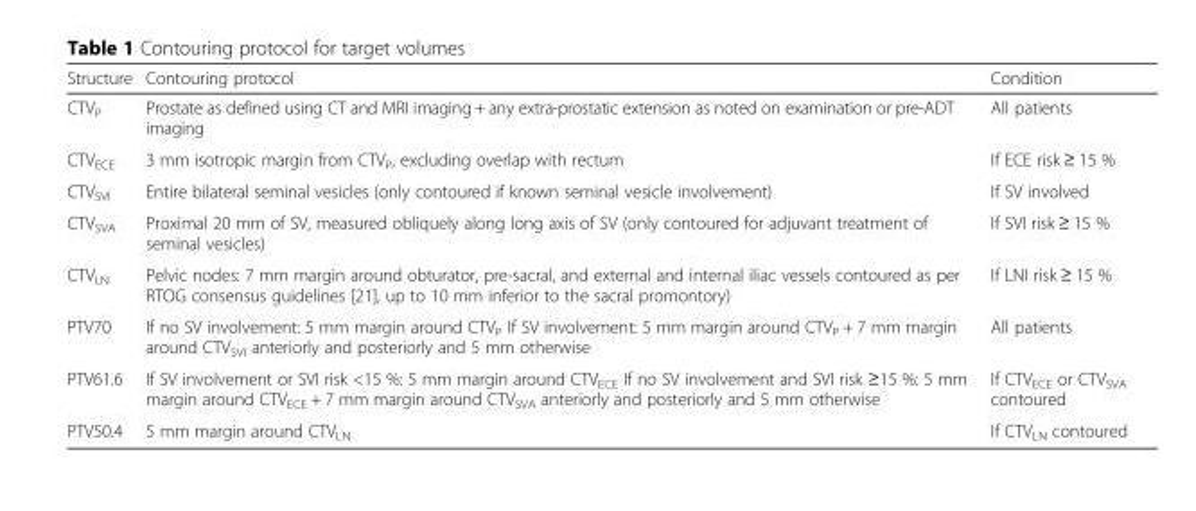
<table><thead><tr><td>Structure</td><td>Contouring protocol</td><td>Condition</td></tr></thead><tbody><tr><td>CTV<sub>P</sub></td><td>Prostate as defined using CT and MRI imaging + any extra-prostatic extension as noted on examination or pre-ADT imaging</td><td>All patients</td></tr><tr><td>CTV<sub>ECE</sub></td><td>3 mm isotropic margin from CTV<sub>P</sub>, excluding overlap with rectum</td><td>If ECE risk ≥ 15 %</td></tr><tr><td>CTV<sub>SVI</sub></td><td>Entire bilateral seminal vesicles (only contoured if known seminal vesicle involvement)</td><td>If SV involved</td></tr><tr><td>CTV<sub>SVA</sub></td><td>Proximal 20 mm of SV, measured obliquely along long axis of SV (only contoured for adjuvant treatment of seminal vesicles)</td><td>If SVI risk ≥ 15 %</td></tr><tr><td>CTV<sub>LN</sub></td><td>Pelvic nodes: 7 mm margin around obturator, pre-sacral, and external and internal iliac vessels contoured as per RTOG consensus guidelines [21], up to 10 mm inferior to the sacral promontory)</td><td>If LNI risk ≥ 15 %</td></tr><tr><td>PTV70</td><td>If no SV involvement: 5 mm margin around CTV<sub>P</sub> If SV involvement: 5 mm margin around CTV<sub>P</sub> + 7 mm margin around CTV<sub>SVI</sub> anteriorly and posteriorly and 5 mm otherwise</td><td>All patients</td></tr><tr><td>PTV61.6</td><td>If SV involvement or SVI risk &lt;15 %: 5 mm margin around CTV<sub>ECE</sub> If no SV involvement and SVI risk ≥15 %: 5 mm margin around CTV<sub>ECE</sub> + 7 mm margin around CTV<sub>SVA</sub> anteriorly and posteriorly and 5 mm otherwise</td><td>If CTV<sub>ECE</sub> or CTV<sub>SVA</sub> contoured</td></tr><tr><td>PTV50.4</td><td>5 mm margin around CTV<sub>LN</sub></td><td>If CTV<sub>LN</sub> contoured</td></tr></tbody></table>